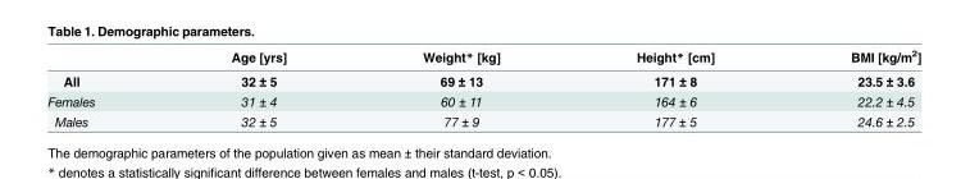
<table><thead><tr><td></td><td>Age [yrs]</td><td>Weight* [kg]</td><td>Height* [cm]</td><td>BMI [kg/m<sup>2</sup>]</td></tr></thead><tbody><tr><td>All</td><td>32 ± 5</td><td>69 ± 13</td><td>171 ± 8</td><td>23.5 ± 3.6</td></tr><tr><td>Females</td><td>31 ± 4</td><td>60 ± 11</td><td>164 ± 6</td><td>22.2 ± 4.5</td></tr><tr><td>Males</td><td>32 ± 5</td><td>77 ± 9</td><td>177 ± 5</td><td>24.6 ± 2.5</td></tr></tbody></table>